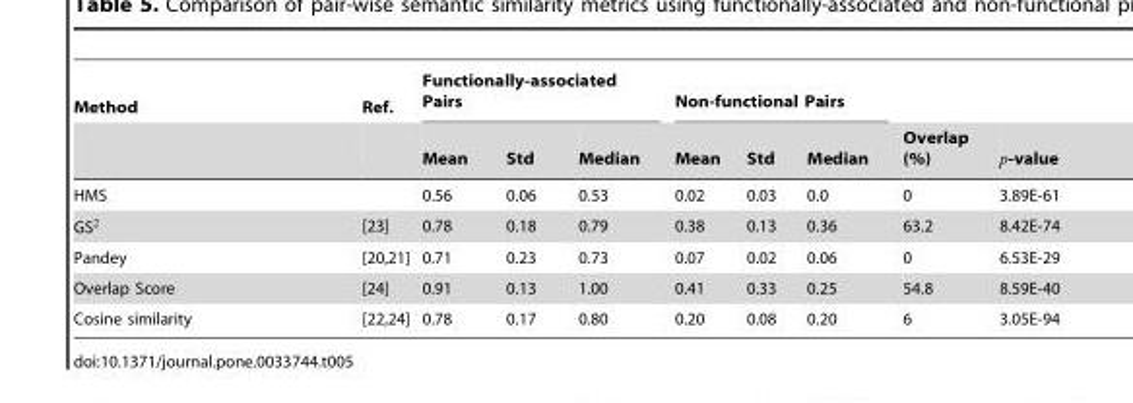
<table><thead><tr><td rowspan="2">Method</td><td rowspan="2">Ref.</td><td colspan="3">Functionally-associated Pairs</td><td colspan="3">Non-functional Pairs</td><td rowspan="2">Overlap (%)</td><td rowspan="2">p-value</td></tr><tr><td>Mean</td><td>Std</td><td>Median</td><td>Mean</td><td>Std</td><td>Median</td></tr></thead><tbody><tr><td>HMS</td><td></td><td>0.56</td><td>0.06</td><td>0.53</td><td>0.02</td><td>0.03</td><td>0.0</td><td>0</td><td>3.89E-61</td></tr><tr><td>GS2</td><td>[23]</td><td>0.78</td><td>0.18</td><td>0.79</td><td>0.38</td><td>0.13</td><td>0.36</td><td>63.2</td><td>8.42E-74</td></tr><tr><td>Pandey</td><td>[20,21]</td><td>0.71</td><td>0.23</td><td>0.73</td><td>0.07</td><td>0.02</td><td>0.06</td><td>0</td><td>6.53E-29</td></tr><tr><td>Overlap Score</td><td>[24]</td><td>0.91</td><td>0.13</td><td>1.00</td><td>0.41</td><td>0.33</td><td>0.25</td><td>54.8</td><td>8.59E-40</td></tr><tr><td>Cosine similarity</td><td>[22,24]</td><td>0.78</td><td>0.17</td><td>0.80</td><td>0.20</td><td>0.08</td><td>0.20</td><td>6</td><td>3.05E-94</td></tr></tbody></table>